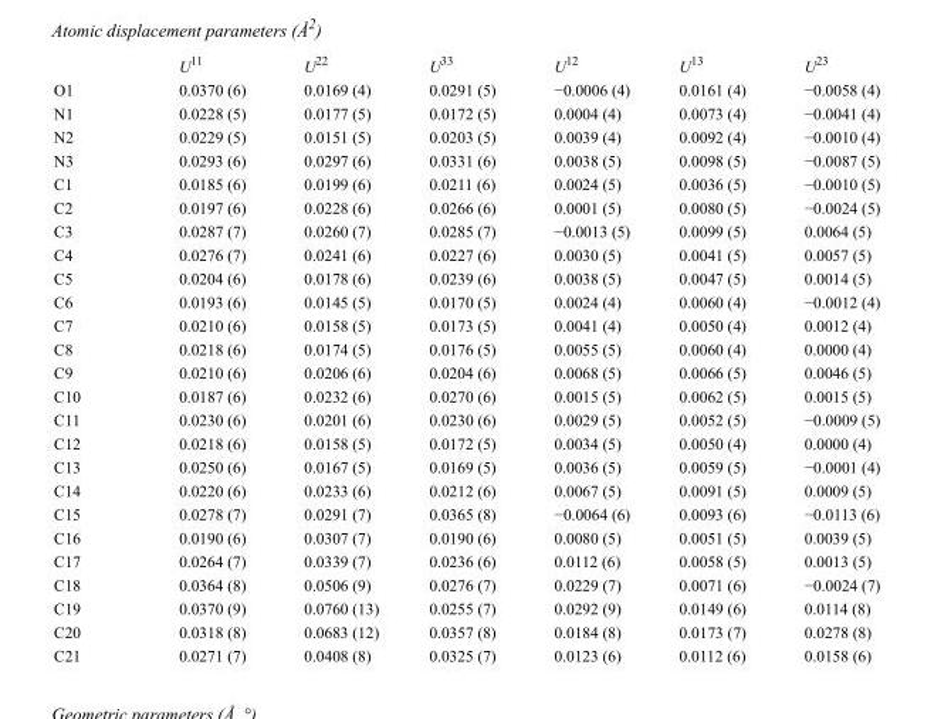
<table><thead><tr><td></td><td>U<sup>11</sup></td><td>U<sup>22</sup></td><td>U<sup>33</sup></td><td>U<sup>12</sup></td><td>U<sup>13</sup></td><td>U<sup>23</sup></td></tr></thead><tbody><tr><td>O1</td><td>0.0370 (6)</td><td>0.0169 (4)</td><td>0.0291 (5)</td><td>−0.0006 (4)</td><td>0.0161 (4)</td><td>−0.0058 (4)</td></tr><tr><td>N1</td><td>0.0228 (5)</td><td>0.0177 (5)</td><td>0.0172 (5)</td><td>0.0004 (4)</td><td>0.0073 (4)</td><td>−0.0041 (4)</td></tr><tr><td>N2</td><td>0.0229 (5)</td><td>0.0151 (5)</td><td>0.0203 (5)</td><td>0.0039 (4)</td><td>0.0092 (4)</td><td>−0.0010 (4)</td></tr><tr><td>N3</td><td>0.0293 (6)</td><td>0.0297 (6)</td><td>0.0331 (6)</td><td>0.0038 (5)</td><td>0.0098 (5)</td><td>−0.0087 (5)</td></tr><tr><td>C1</td><td>0.0185 (6)</td><td>0.0199 (6)</td><td>0.0211 (6)</td><td>0.0024 (5)</td><td>0.0036 (5)</td><td>−0.0010 (5)</td></tr><tr><td>C2</td><td>0.0197 (6)</td><td>0.0228 (6)</td><td>0.0266 (6)</td><td>0.0001 (5)</td><td>0.0080 (5)</td><td>−0.0024 (5)</td></tr><tr><td>C3</td><td>0.0287 (7)</td><td>0.0260 (7)</td><td>0.0285 (7)</td><td>−0.0013 (5)</td><td>0.0099 (5)</td><td>0.0064 (5)</td></tr><tr><td>C4</td><td>0.0276 (7)</td><td>0.0241 (6)</td><td>0.0227 (6)</td><td>0.0030 (5)</td><td>0.0041 (5)</td><td>0.0057 (5)</td></tr><tr><td>C5</td><td>0.0204 (6)</td><td>0.0178 (6)</td><td>0.0239 (6)</td><td>0.0038 (5)</td><td>0.0047 (5)</td><td>0.0014 (5)</td></tr><tr><td>C6</td><td>0.0193 (6)</td><td>0.0145 (5)</td><td>0.0170 (5)</td><td>0.0024 (4)</td><td>0.0060 (4)</td><td>−0.0012 (4)</td></tr><tr><td>C7</td><td>0.0210 (6)</td><td>0.0158 (5)</td><td>0.0173 (5)</td><td>0.0041 (4)</td><td>0.0050 (4)</td><td>0.0012 (4)</td></tr><tr><td>C8</td><td>0.0218 (6)</td><td>0.0174 (5)</td><td>0.0176 (5)</td><td>0.0055 (5)</td><td>0.0060 (4)</td><td>0.0000 (4)</td></tr><tr><td>C9</td><td>0.0210 (6)</td><td>0.0206 (6)</td><td>0.0204 (6)</td><td>0.0068 (5)</td><td>0.0066 (5)</td><td>0.0046 (5)</td></tr><tr><td>C10</td><td>0.0187 (6)</td><td>0.0232 (6)</td><td>0.0270 (6)</td><td>0.0015 (5)</td><td>0.0062 (5)</td><td>0.0015 (5)</td></tr><tr><td>C11</td><td>0.0230 (6)</td><td>0.0201 (6)</td><td>0.0230 (6)</td><td>0.0029 (5)</td><td>0.0052 (5)</td><td>−0.0009 (5)</td></tr><tr><td>C12</td><td>0.0218 (6)</td><td>0.0158 (5)</td><td>0.0172 (5)</td><td>0.0034 (5)</td><td>0.0050 (4)</td><td>0.0000 (4)</td></tr><tr><td>C13</td><td>0.0250 (6)</td><td>0.0167 (5)</td><td>0.0169 (5)</td><td>0.0036 (5)</td><td>0.0059 (5)</td><td>−0.0001 (4)</td></tr><tr><td>C14</td><td>0.0220 (6)</td><td>0.0233 (6)</td><td>0.0212 (6)</td><td>0.0067 (5)</td><td>0.0091 (5)</td><td>0.0009 (5)</td></tr><tr><td>C15</td><td>0.0278 (7)</td><td>0.0291 (7)</td><td>0.0365 (8)</td><td>−0.0064 (6)</td><td>0.0093 (6)</td><td>−0.0113 (6)</td></tr><tr><td>C16</td><td>0.0190 (6)</td><td>0.0307 (7)</td><td>0.0190 (6)</td><td>0.0080 (5)</td><td>0.0051 (5)</td><td>0.0039 (5)</td></tr><tr><td>C17</td><td>0.0264 (7)</td><td>0.0339 (7)</td><td>0.0236 (6)</td><td>0.0112 (6)</td><td>0.0058 (5)</td><td>0.0013 (5)</td></tr><tr><td>C18</td><td>0.0364 (8)</td><td>0.0506 (9)</td><td>0.0276 (7)</td><td>0.0229 (7)</td><td>0.0071 (6)</td><td>−0.0024 (7)</td></tr><tr><td>C19</td><td>0.0370 (9)</td><td>0.0760 (13)</td><td>0.0255 (7)</td><td>0.0292 (9)</td><td>0.0149 (6)</td><td>0.0114 (8)</td></tr><tr><td>C20</td><td>0.0318 (8)</td><td>0.0683 (12)</td><td>0.0357 (8)</td><td>0.0184 (8)</td><td>0.0173 (7)</td><td>0.0278 (8)</td></tr><tr><td>C21</td><td>0.0271 (7)</td><td>0.0408 (8)</td><td>0.0325 (7)</td><td>0.0123 (6)</td><td>0.0112 (6)</td><td>0.0158 (6)</td></tr></tbody></table>